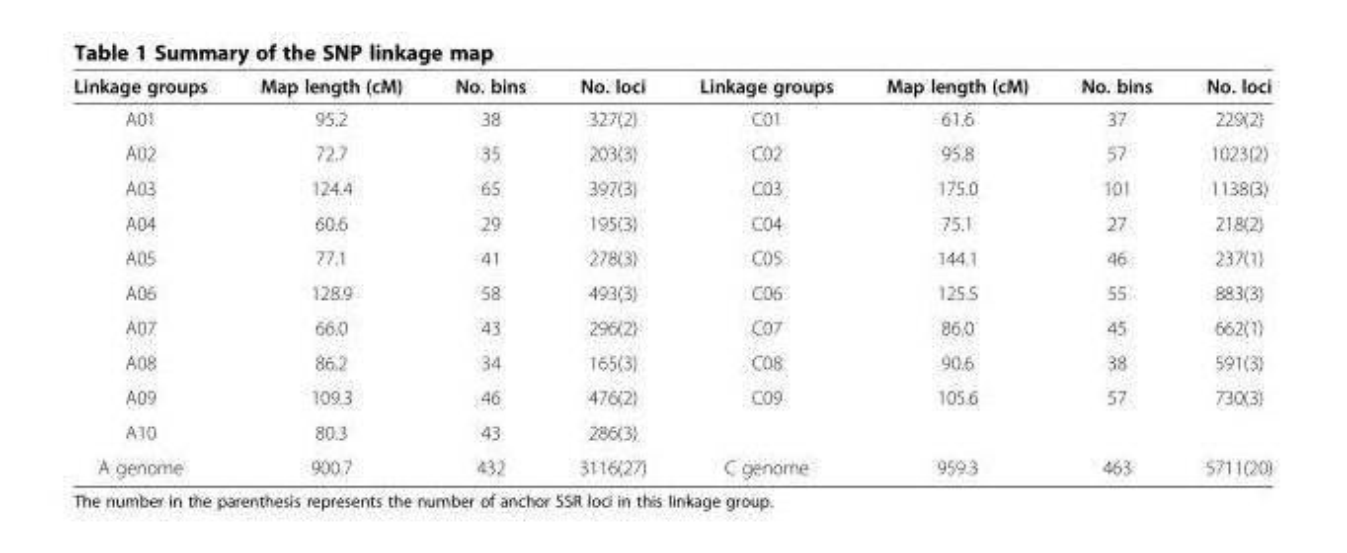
<table><thead><tr><td>Linkage groups</td><td>Map length (cM)</td><td>No. bins</td><td>No. loci</td><td>Linkage groups</td><td>Map length (cM)</td><td>No. bins</td><td>No. loci</td></tr></thead><tbody><tr><td>A01</td><td>95.2</td><td>38</td><td>327(2)</td><td>C01</td><td>61.6</td><td>37</td><td>229(2)</td></tr><tr><td>A02</td><td>72.7</td><td>35</td><td>203(3)</td><td>C02</td><td>95.8</td><td>57</td><td>1023(2)</td></tr><tr><td>A03</td><td>124.4</td><td>65</td><td>397(3)</td><td>C03</td><td>175.0</td><td>101</td><td>1138(3)</td></tr><tr><td>A04</td><td>60.6</td><td>29</td><td>195(3)</td><td>C04</td><td>75.1</td><td>27</td><td>218(2)</td></tr><tr><td>A05</td><td>77.1</td><td>41</td><td>278(3)</td><td>C05</td><td>144.1</td><td>46</td><td>237(1)</td></tr><tr><td>A06</td><td>128.9</td><td>58</td><td>493(3)</td><td>C06</td><td>125.5</td><td>55</td><td>883(3)</td></tr><tr><td>A07</td><td>66.0</td><td>43</td><td>296(2)</td><td>C07</td><td>86.0</td><td>45</td><td>662(1)</td></tr><tr><td>A08</td><td>86.2</td><td>34</td><td>165(3)</td><td>C08</td><td>90.6</td><td>38</td><td>591(3)</td></tr><tr><td>A09</td><td>109.3</td><td>46</td><td>476(2)</td><td>C09</td><td>105.6</td><td>57</td><td>730(3)</td></tr><tr><td>A10</td><td>80.3</td><td>43</td><td>286(3)</td><td></td><td></td><td></td><td></td></tr><tr><td>A genome</td><td>900.7</td><td>432</td><td>3116(27)</td><td>C genome</td><td>959.3</td><td>463</td><td>5711(20)</td></tr></tbody></table>